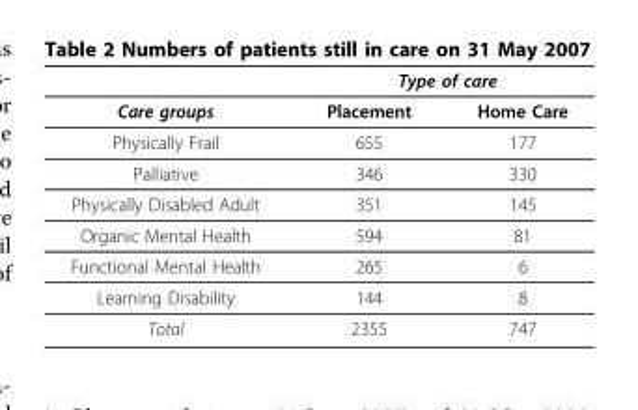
<table><thead><tr><td rowspan="2">Care groups</td><td colspan="2">Type of care</td></tr><tr><td>Placement</td><td>Home Care</td></tr></thead><tbody><tr><td>Physically Frail</td><td>655</td><td>177</td></tr><tr><td>Palliative</td><td>346</td><td>330</td></tr><tr><td>Physically Disabled Adult</td><td>351</td><td>145</td></tr><tr><td>Organic Mental Health</td><td>594</td><td>81</td></tr><tr><td>Functional Mental Health</td><td>265</td><td>6</td></tr><tr><td>Learning Disability</td><td>144</td><td>8</td></tr><tr><td>Total</td><td>2355</td><td>747</td></tr></tbody></table>